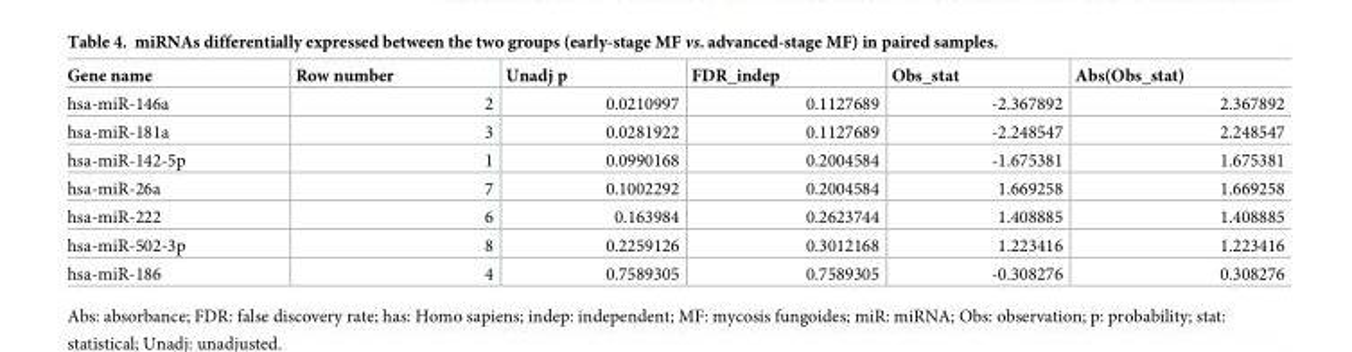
<table><thead><tr><td>Gene name</td><td>Row number</td><td>Unadj p</td><td>FDR_indep</td><td>Obs_stat</td><td>Abs(Obs_stat)</td></tr></thead><tbody><tr><td>hsa-miR-146a</td><td>2</td><td>0.0210997</td><td>0.1127689</td><td>-2.367892</td><td>2.367892</td></tr><tr><td>hsa-miR-181a</td><td>3</td><td>0.0281922</td><td>0.1127689</td><td>-2.248547</td><td>2.248547</td></tr><tr><td>hsa-miR-142-5p</td><td>1</td><td>0.0990168</td><td>0.2004584</td><td>-1.675381</td><td>1.675381</td></tr><tr><td>hsa-miR-26a</td><td>7</td><td>0.1002292</td><td>0.2004584</td><td>1.669258</td><td>1.669258</td></tr><tr><td>hsa-miR-222</td><td>6</td><td>0.163984</td><td>0.2623744</td><td>1.408885</td><td>1.408885</td></tr><tr><td>hsa-miR-502-3p</td><td>8</td><td>0.2259126</td><td>0.3012168</td><td>1.223416</td><td>1.223416</td></tr><tr><td>hsa-miR-186</td><td>4</td><td>0.7589305</td><td>0.7589305</td><td>-0.308276</td><td>0.308276</td></tr></tbody></table>